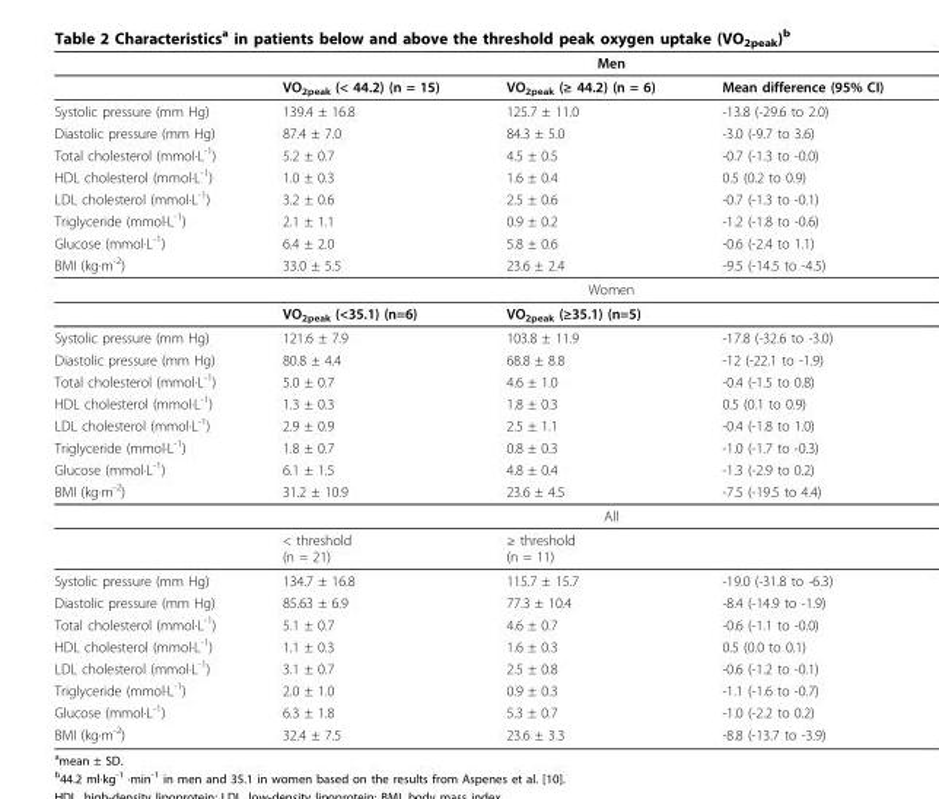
<table><thead><tr><td rowspan="2"></td><td colspan="3">Men</td></tr><tr><td>VO<sub>2peak</sub> (&lt; 44.2) (n = 15)</td><td>VO<sub>2peak</sub> (≥ 44.2) (n = 6)</td><td>Mean difference (95% CI)</td></tr></thead><tbody><tr><td>Systolic pressure (mm Hg)</td><td>139.4 ± 16.8</td><td>125.7 ± 11.0</td><td>-13.8 (-29.6 to 2.0)</td></tr><tr><td>Diastolic pressure (mm Hg)</td><td>87.4 ± 7.0</td><td>84.3 ± 5.0</td><td>-3.0 (-9.7 to 3.6)</td></tr><tr><td>Total cholesterol (mmol·L<sup>-1</sup>)</td><td>5.2 ± 0.7</td><td>4.5 ± 0.5</td><td>-0.7 (-1.3 to -0.0)</td></tr><tr><td>HDL cholesterol (mmol·L<sup>-1</sup>)</td><td>1.0 ± 0.3</td><td>1.6 ± 0.4</td><td>0.5 (0.2 to 0.9)</td></tr><tr><td>LDL cholesterol (mmol·L<sup>-1</sup>)</td><td>3.2 ± 0.6</td><td>2.5 ± 0.6</td><td>-0.7 (-1.3 to -0.1)</td></tr><tr><td>Triglyceride (mmol·L<sup>-1</sup>)</td><td>2.1 ± 1.1</td><td>0.9 ± 0.2</td><td>-1.2 (-1.8 to -0.6)</td></tr><tr><td>Glucose (mmol·L<sup>-1</sup>)</td><td>6.4 ± 2.0</td><td>5.8 ± 0.6</td><td>-0.6 (-2.4 to 1.1)</td></tr><tr><td rowspan="3">BMI (kg·m<sup>-2</sup>)</td><td>33.0 ± 5.5</td><td>23.6 ± 2.4</td><td>-9.5 (-14.5 to -4.5)</td></tr><tr><td colspan="3">Women</td></tr><tr><td>VO<sub>2peak</sub> (&lt;35.1) (n=6)</td><td>VO<sub>2peak</sub> (≥35.1) (n=5)</td><td></td></tr><tr><td>Systolic pressure (mm Hg)</td><td>121.6 ± 7.9</td><td>103.8 ± 11.9</td><td>-17.8 (-32.6 to -3.0)</td></tr><tr><td>Diastolic pressure (mm Hg)</td><td>80.8 ± 4.4</td><td>68.8 ± 8.8</td><td>-12 (-22.1 to -1.9)</td></tr><tr><td>Total cholesterol (mmol·L<sup>-1</sup>)</td><td>5.0 ± 0.7</td><td>4.6 ± 1.0</td><td>-0.4 (-1.5 to 0.8)</td></tr><tr><td>HDL cholesterol (mmol·L<sup>-1</sup>)</td><td>1.3 ± 0.3</td><td>1.8 ± 0.3</td><td>0.5 (0.1 to 0.9)</td></tr><tr><td>LDL cholesterol (mmol·L<sup>-1</sup>)</td><td>2.9 ± 0.9</td><td>2.5 ± 1.1</td><td>-0.4 (-1.8 to 1.0)</td></tr><tr><td>Triglyceride (mmol·L<sup>-1</sup>)</td><td>1.8 ± 0.7</td><td>0.8 ± 0.3</td><td>-1.0 (-1.7 to -0.3)</td></tr><tr><td>Glucose (mmol·L<sup>-1</sup>)</td><td>6.1 ± 1.5</td><td>4.8 ± 0.4</td><td>-1.3 (-2.9 to 0.2)</td></tr><tr><td rowspan="3">BMI (kg·m<sup>-2</sup>)</td><td>31.2 ± 10.9</td><td>23.6 ± 4.5</td><td>-7.5 (-19.5 to 4.4)</td></tr><tr><td colspan="3">All</td></tr><tr><td>&lt; threshold (n = 21)</td><td>≥ threshold (n = 11)</td><td></td></tr><tr><td>Systolic pressure (mm Hg)</td><td>134.7 ± 16.8</td><td>115.7 ± 15.7</td><td>-19.0 (-31.8 to -6.3)</td></tr><tr><td>Diastolic pressure (mm Hg)</td><td>85.63 ± 6.9</td><td>77.3 ± 10.4</td><td>-8.4 (-14.9 to -1.9)</td></tr><tr><td>Total cholesterol (mmol·L<sup>-1</sup>)</td><td>5.1 ± 0.7</td><td>4.6 ± 0.7</td><td>-0.6 (-1.1 to -0.0)</td></tr><tr><td>HDL cholesterol (mmol·L<sup>-1</sup>)</td><td>1.1 ± 0.3</td><td>1.6 ± 0.3</td><td>0.5 (0.0 to 0.1)</td></tr><tr><td>LDL cholesterol (mmol·L<sup>-1</sup>)</td><td>3.1 ± 0.7</td><td>2.5 ± 0.8</td><td>-0.6 (-1.2 to -0.1)</td></tr><tr><td>Triglyceride (mmol·L<sup>-1</sup>)</td><td>2.0 ± 1.0</td><td>0.9 ± 0.3</td><td>-1.1 (-1.6 to -0.7)</td></tr><tr><td>Glucose (mmol·L<sup>-1</sup>)</td><td>6.3 ± 1.8</td><td>5.3 ± 0.7</td><td>-1.0 (-2.2 to 0.2)</td></tr><tr><td>BMI (kg·m<sup>-2</sup>)</td><td>32.4 ± 7.5</td><td>23.6 ± 3.3</td><td>-8.8 (-13.7 to -3.9)</td></tr></tbody></table>